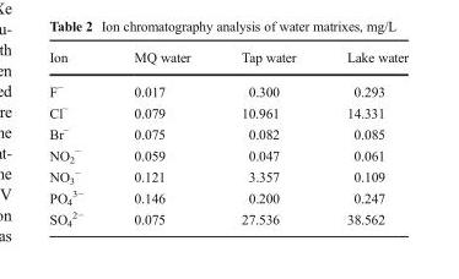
<table><thead><tr><td>Ion</td><td>MQ water</td><td>Tap water</td><td>Lake water</td></tr></thead><tbody><tr><td>F<sup>−</sup></td><td>0.017</td><td>0.300</td><td>0.293</td></tr><tr><td>Cl<sup>−</sup></td><td>0.079</td><td>10.961</td><td>14.331</td></tr><tr><td>Br<sup>−</sup></td><td>0.075</td><td>0.082</td><td>0.085</td></tr><tr><td>NO<sub>2</sub> <sup>−</sup></td><td>0.059</td><td>0.047</td><td>0.061</td></tr><tr><td>NO<sub>3</sub> <sup>−</sup></td><td>0.121</td><td>3.357</td><td>0.109</td></tr><tr><td>PO<sub>4</sub> <sup>3−</sup></td><td>0.146</td><td>0.200</td><td>0.247</td></tr><tr><td>SO<sub>4</sub> <sup>2−</sup></td><td>0.075</td><td>27.536</td><td>38.562</td></tr></tbody></table>